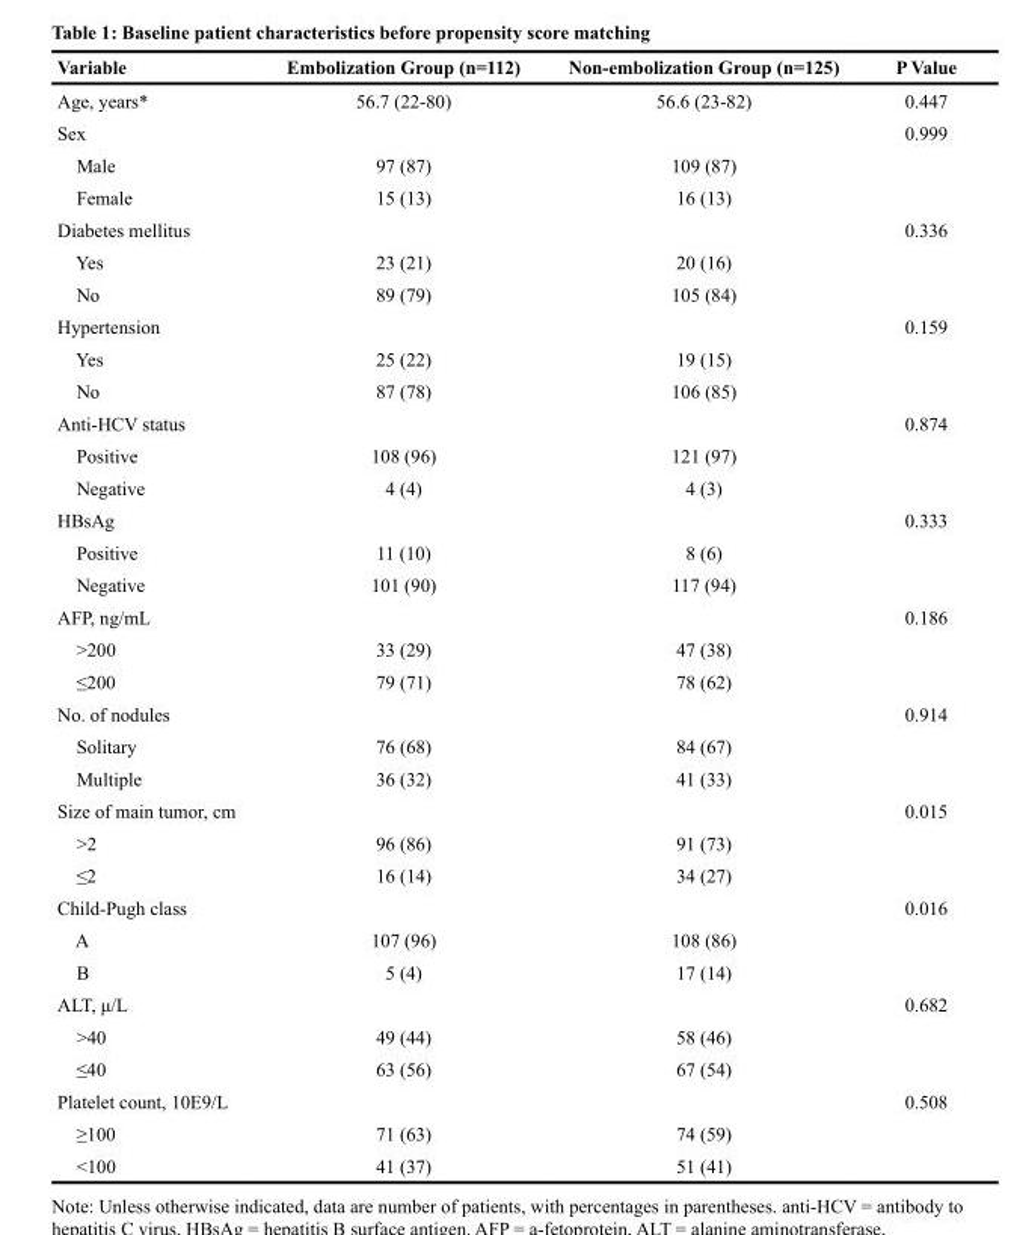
<table><thead><tr><td>Variable</td><td>Embolization Group (n=112)</td><td>Non-embolization Group (n=125)</td><td>P Value</td></tr></thead><tbody><tr><td>Age, years*</td><td>56.7 (22-80)</td><td>56.6 (23-82)</td><td>0.447</td></tr><tr><td>Sex</td><td></td><td></td><td>0.999</td></tr><tr><td>Male</td><td>97 (87)</td><td>109 (87)</td><td></td></tr><tr><td>Female</td><td>15 (13)</td><td>16 (13)</td><td></td></tr><tr><td>Diabetes mellitus</td><td></td><td></td><td>0.336</td></tr><tr><td>Yes</td><td>23 (21)</td><td>20 (16)</td><td></td></tr><tr><td>No</td><td>89 (79)</td><td>105 (84)</td><td></td></tr><tr><td>Hypertension</td><td></td><td></td><td>0.159</td></tr><tr><td>Yes</td><td>25 (22)</td><td>19 (15)</td><td></td></tr><tr><td>No</td><td>87 (78)</td><td>106 (85)</td><td></td></tr><tr><td>Anti-HCV status</td><td></td><td></td><td>0.874</td></tr><tr><td>Positive</td><td>108 (96)</td><td>121 (97)</td><td></td></tr><tr><td>Negative</td><td>4 (4)</td><td>4 (3)</td><td></td></tr><tr><td>HBsAg</td><td></td><td></td><td>0.333</td></tr><tr><td>Positive</td><td>11 (10)</td><td>8 (6)</td><td></td></tr><tr><td>Negative</td><td>101 (90)</td><td>117 (94)</td><td></td></tr><tr><td>AFP, ng/mL</td><td></td><td></td><td>0.186</td></tr><tr><td>&gt;200</td><td>33 (29)</td><td>47 (38)</td><td></td></tr><tr><td>≤200</td><td>79 (71)</td><td>78 (62)</td><td></td></tr><tr><td>No. of nodules</td><td></td><td></td><td>0.914</td></tr><tr><td>Solitary</td><td>76 (68)</td><td>84 (67)</td><td></td></tr><tr><td>Multiple</td><td>36 (32)</td><td>41 (33)</td><td></td></tr><tr><td>Size of main tumor, cm</td><td></td><td></td><td>0.015</td></tr><tr><td>&gt;2</td><td>96 (86)</td><td>91 (73)</td><td></td></tr><tr><td>≤2</td><td>16 (14)</td><td>34 (27)</td><td></td></tr><tr><td>Child-Pugh class</td><td></td><td></td><td>0.016</td></tr><tr><td>A</td><td>107 (96)</td><td>108 (86)</td><td></td></tr><tr><td>B</td><td>5 (4)</td><td>17 (14)</td><td></td></tr><tr><td>ALT, μ/L</td><td></td><td></td><td>0.682</td></tr><tr><td>&gt;40</td><td>49 (44)</td><td>58 (46)</td><td></td></tr><tr><td>≤40</td><td>63 (56)</td><td>67 (54)</td><td></td></tr><tr><td>Platelet count, 10E9/L</td><td></td><td></td><td>0.508</td></tr><tr><td>≥100</td><td>71 (63)</td><td>74 (59)</td><td></td></tr><tr><td>&lt;100</td><td>41 (37)</td><td>51 (41)</td><td></td></tr></tbody></table>